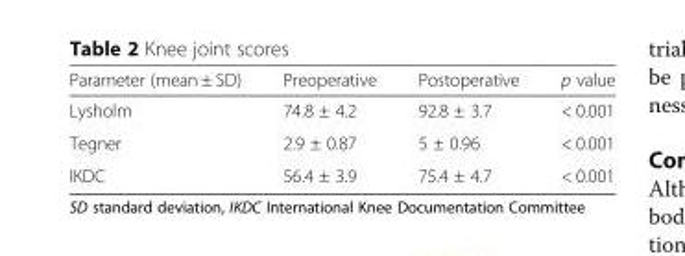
<table><thead><tr><td>Parameter (mean ± SD)</td><td>Preoperative</td><td>Postoperative</td><td>p value</td></tr></thead><tbody><tr><td>Lysholm</td><td>74.8 ± 4.2</td><td>92.8 ± 3.7</td><td>&lt; 0.001</td></tr><tr><td>Tegner</td><td>2.9 ± 0.87</td><td>5 ± 0.96</td><td>&lt; 0.001</td></tr><tr><td>IKDC</td><td>56.4 ± 3.9</td><td>75.4 ± 4.7</td><td>&lt; 0.001</td></tr></tbody></table>